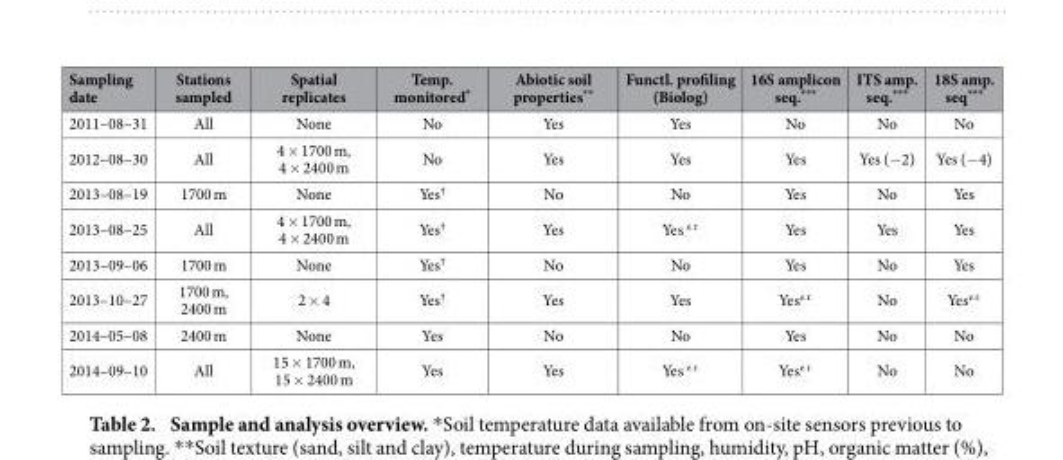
<table><thead><tr><td>Sampling date</td><td>Stations sampled</td><td>Spatial replicates</td><td>Temp. monitored*</td><td>Abiotic soil properties**</td><td>Functl. profiling (Biolog)</td><td>16S amplicon seq.***</td><td>ITS amp. seq.***</td><td>18S amp. seq***</td></tr></thead><tbody><tr><td>2011–08–31</td><td>All</td><td>None</td><td>No</td><td>Yes</td><td>Yes</td><td>No</td><td>No</td><td>No</td></tr><tr><td>2012–08–30</td><td>All</td><td>4 × 1700 m, 4 × 2400 m</td><td>No</td><td>Yes</td><td>Yes</td><td>Yes</td><td>Yes (− 2)</td><td>Yes (− 4)</td></tr><tr><td>2013–08–19</td><td>1700 m</td><td>None</td><td>Yes†</td><td>No</td><td>No</td><td>Yes</td><td>No</td><td>Yes</td></tr><tr><td>2013–08–25</td><td>All</td><td>4 × 1700 m, 4 × 2400 m</td><td>Yes†</td><td>Yes</td><td>Yes <sup>e.r.</sup></td><td>Yes</td><td>Yes</td><td>Yes</td></tr><tr><td>2013–09–06</td><td>1700 m</td><td>None</td><td>Yes†</td><td>No</td><td>No</td><td>Yes</td><td>No</td><td>Yes</td></tr><tr><td>2013–10–27</td><td>1700 m, 2400 m</td><td>2 × 4</td><td>Yes†</td><td>Yes</td><td>Yes</td><td>Yes<sup>e.r.</sup></td><td>No</td><td>Yes<sup>e.r.</sup></td></tr><tr><td>2014–05–08</td><td>2400 m</td><td>None</td><td>Yes</td><td>No</td><td>No</td><td>Yes</td><td>No</td><td>No</td></tr><tr><td>2014–09–10</td><td>All</td><td>15 × 1700 m, 15 × 2400 m</td><td>Yes</td><td>Yes</td><td>Yes <sup>e.r.</sup></td><td>Yes<sup>e.r.</sup></td><td>No</td><td>No</td></tr></tbody></table>